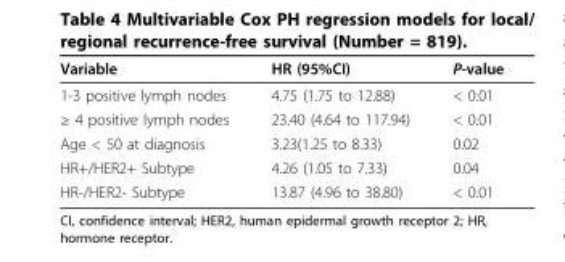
<table><thead><tr><td>Variable</td><td>HR (95%CI)</td><td>P-value</td></tr></thead><tbody><tr><td>1-3 positive lymph nodes</td><td>4.75 (1.75 to 12.88)</td><td>&lt; 0.01</td></tr><tr><td>≥ 4 positive lymph nodes</td><td>23.40 (4.64 to 117.94)</td><td>&lt; 0.01</td></tr><tr><td>Age &lt; 50 at diagnosis</td><td>3.23(1.25 to 8.33)</td><td>0.02</td></tr><tr><td>HR+/HER2+ Subtype</td><td>4.26 (1.05 to 7.33)</td><td>0.04</td></tr><tr><td>HR-/HER2- Subtype</td><td>13.87 (4.96 to 38.80)</td><td>&lt; 0.01</td></tr></tbody></table>